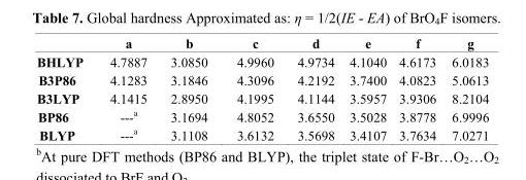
<table><thead><tr><td></td><td>a</td><td>b</td><td>c</td><td>d</td><td>e</td><td>f</td><td>g</td></tr></thead><tbody><tr><td>BHLYP</td><td>4.7887</td><td>3.0850</td><td>4.9960</td><td>4.9734</td><td>4.1040</td><td>4.6173</td><td>6.0183</td></tr><tr><td>B3P86</td><td>4.1283</td><td>3.1846</td><td>4.3096</td><td>4.2192</td><td>3.7400</td><td>4.0823</td><td>5.0613</td></tr><tr><td>B3LYP</td><td>4.1415</td><td>2.8950</td><td>4.1995</td><td>4.1144</td><td>3.5957</td><td>3.9306</td><td>8.2104</td></tr><tr><td>BP86</td><td>---a</td><td>3.1694</td><td>4.8052</td><td>3.6550</td><td>3.5028</td><td>3.8778</td><td>6.9996</td></tr><tr><td>BLYP</td><td>---a</td><td>3.1108</td><td>3.6132</td><td>3.5698</td><td>3.4107</td><td>3.7634</td><td>7.0271</td></tr></tbody></table>